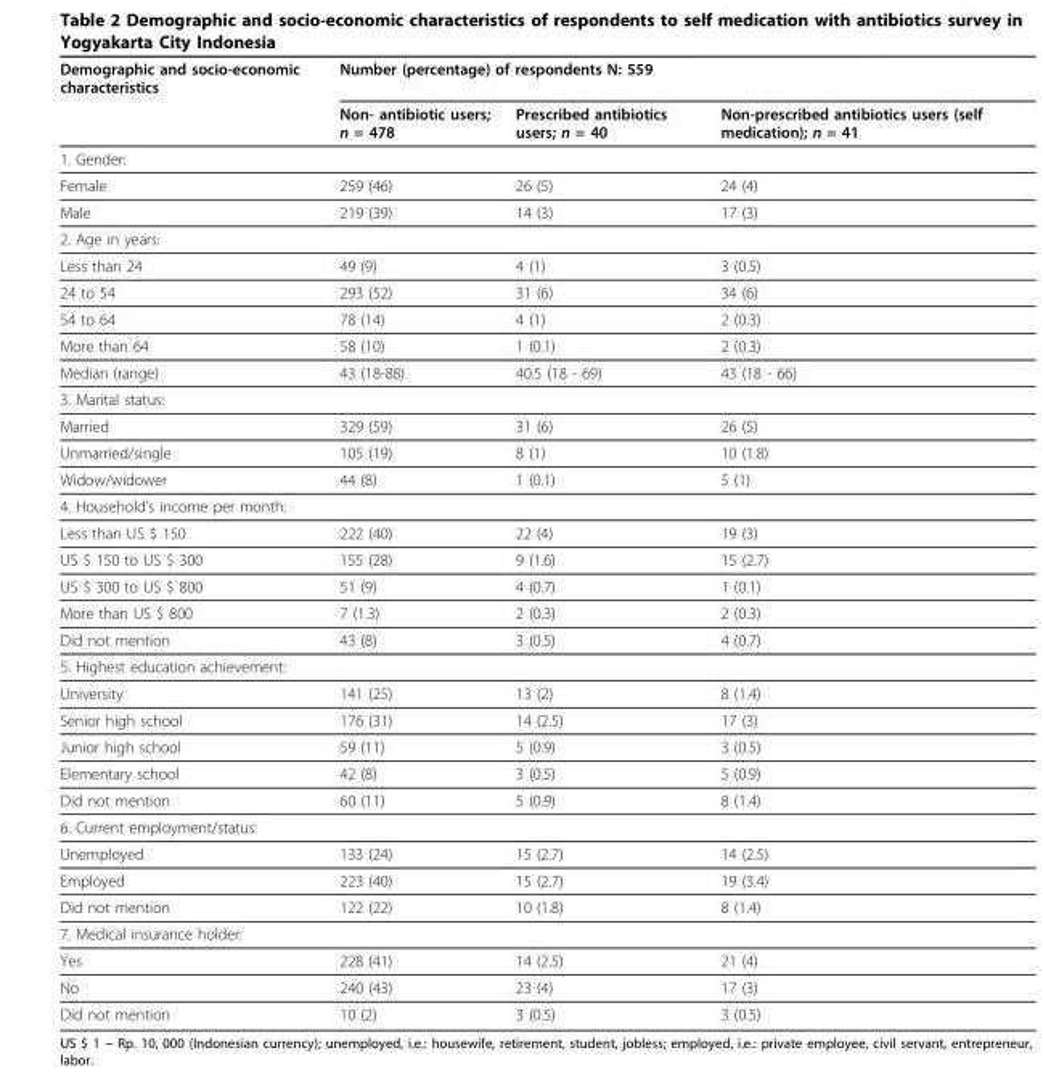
<table><thead><tr><td rowspan="2">Demographic and socio-economic characteristics</td><td colspan="3">Number (percentage) of respondents N: 559</td></tr><tr><td>Non- antibiotic users; n = 478</td><td>Prescribed antibiotics users; n = 40</td><td>Non-prescribed antibiotics users (self medication); n = 41</td></tr></thead><tbody><tr><td colspan="4">1. Gender:</td></tr><tr><td>Female</td><td>259 (46)</td><td>26 (5)</td><td>24 (4)</td></tr><tr><td>Male</td><td>219 (39)</td><td>14 (3)</td><td>17 (3)</td></tr><tr><td colspan="4">2. Age in years:</td></tr><tr><td>Less than 24</td><td>49 (9)</td><td>4 (1)</td><td>3 (0.5)</td></tr><tr><td>24 to 54</td><td>293 (52)</td><td>31 (6)</td><td>34 (6)</td></tr><tr><td>54 to 64</td><td>78 (14)</td><td>4 (1)</td><td>2 (0.3)</td></tr><tr><td>More than 64</td><td>58 (10)</td><td>1 (0.1)</td><td>2 (0.3)</td></tr><tr><td>Median (range)</td><td>43 (18-88)</td><td>40.5 (18 - 69)</td><td>43 (18 - 66)</td></tr><tr><td colspan="4">3. Marital status:</td></tr><tr><td>Married</td><td>329 (59)</td><td>31 (6)</td><td>26 (5)</td></tr><tr><td>Unmarried/single</td><td>105 (19)</td><td>8 (1)</td><td>10 (1.8)</td></tr><tr><td>Widow/widower</td><td>44 (8)</td><td>1 (0.1)</td><td>5 (1)</td></tr><tr><td colspan="4">4. Household’s income per month:</td></tr><tr><td>Less than US $ 150</td><td>222 (40)</td><td>22 (4)</td><td>19 (3)</td></tr><tr><td>US $ 150 to US $ 300</td><td>155 (28)</td><td>9 (1.6)</td><td>15 (2.7)</td></tr><tr><td>US $ 300 to US $ 800</td><td>51 (9)</td><td>4 (0.7)</td><td>1 (0.1)</td></tr><tr><td>More than US $ 800</td><td>7 (1.3)</td><td>2 (0.3)</td><td>2 (0.3)</td></tr><tr><td>Did not mention</td><td>43 (8)</td><td>3 (0.5)</td><td>4 (0.7)</td></tr><tr><td colspan="4">5. Highest education achievement:</td></tr><tr><td>University</td><td>141 (25)</td><td>13 (2)</td><td>8 (1.4)</td></tr><tr><td>Senior high school</td><td>176 (31)</td><td>14 (2.5)</td><td>17 (3)</td></tr><tr><td>Junior high school</td><td>59 (11)</td><td>5 (0.9)</td><td>3 (0.5)</td></tr><tr><td>Elementary school</td><td>42 (8)</td><td>3 (0.5)</td><td>5 (0.9)</td></tr><tr><td>Did not mention</td><td>60 (11)</td><td>5 (0.9)</td><td>8 (1.4)</td></tr><tr><td colspan="4">6. Current employment/status:</td></tr><tr><td>Unemployed</td><td>133 (24)</td><td>15 (2.7)</td><td>14 (2.5)</td></tr><tr><td>Employed</td><td>223 (40)</td><td>15 (2.7)</td><td>19 (3.4)</td></tr><tr><td>Did not mention</td><td>122 (22)</td><td>10 (1.8)</td><td>8 (1.4)</td></tr><tr><td colspan="4">7. Medical insurance holder:</td></tr><tr><td>Yes</td><td>228 (41)</td><td>14 (2.5)</td><td>21 (4)</td></tr><tr><td>No</td><td>240 (43)</td><td>23 (4)</td><td>17 (3)</td></tr><tr><td>Did not mention</td><td>10 (2)</td><td>3 (0.5)</td><td>3 (0.5)</td></tr></tbody></table>